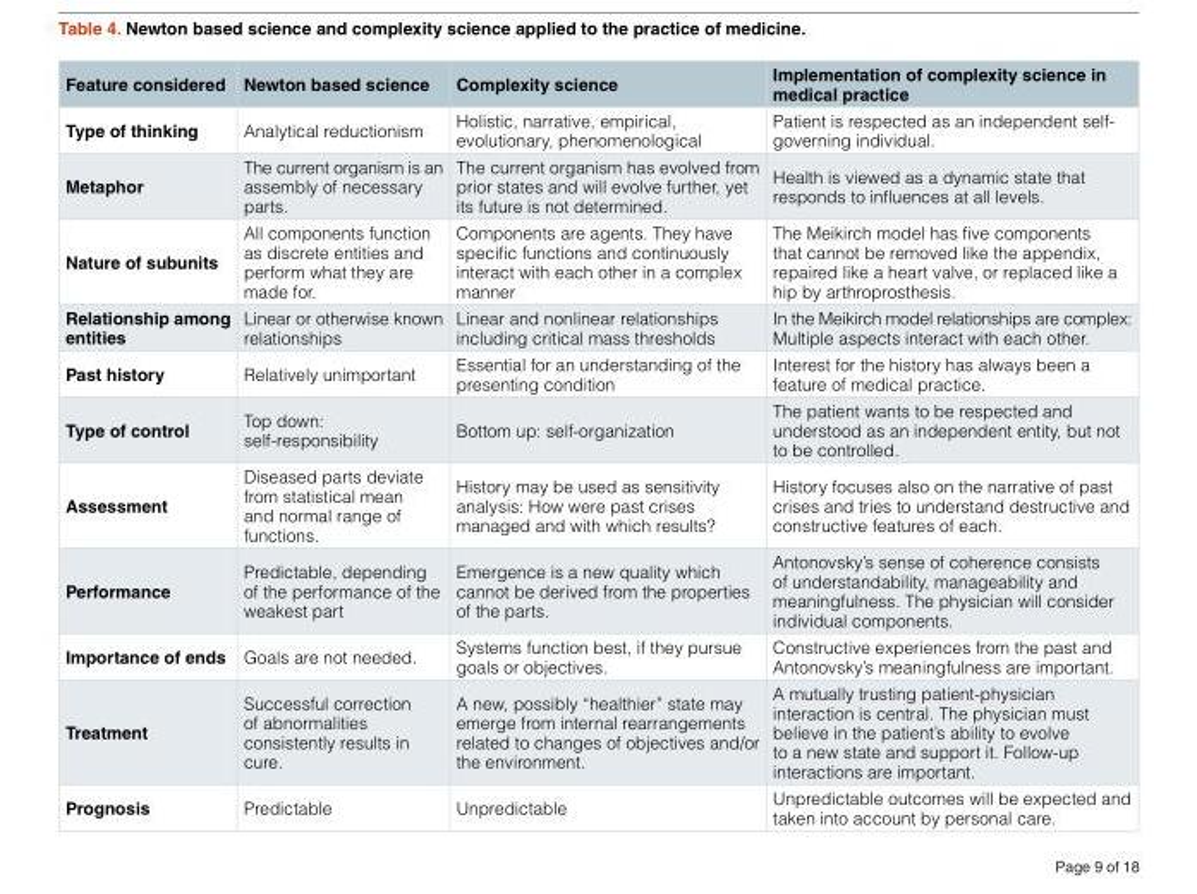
<table><thead><tr><td>Feature considered</td><td>Newton based science</td><td>Complexity science</td><td>Implementation of complexity science in medical practice</td></tr></thead><tbody><tr><td>Type of thinking</td><td>Analytical reductionism</td><td>Holistic, narrative, empirical, evolutionary, phenomenological</td><td>Patient is respected as an independent self- governing individual.</td></tr><tr><td>Metaphor</td><td>The current organism is an assembly of necessary parts.</td><td>The current organism has evolved from prior states and will evolve further, yet its future is not determined.</td><td>Health is viewed as a dynamic state that responds to influences at all levels.</td></tr><tr><td>Nature of subunits</td><td>All components function as discrete entities and perform what they are made for.</td><td>Components are agents. They have specific functions and continuously interact with each other in a complex manner</td><td>The Meikirch model has five components that cannot be removed like the appendix, repaired like a heart valve, or replaced like a hip by arthroprosthesis.</td></tr><tr><td>Relationship among entities</td><td>Linear or otherwise known relationships</td><td>Linear and nonlinear relationships including critical mass thresholds</td><td>In the Meikirch model relationships are complex: Multiple aspects interact with each other.</td></tr><tr><td>Past history</td><td>Relatively unimportant</td><td>Essential for an understanding of the presenting condition</td><td>Interest for the history has always been a feature of medical practice.</td></tr><tr><td>Type of control</td><td>Top down: self-responsibility</td><td>Bottom up: self-organization</td><td>The patient wants to be respected and understood as an independent entity, but not to be controlled.</td></tr><tr><td>Assessment</td><td>Diseased parts deviate from statistical mean and normal range of functions.</td><td>History may be used as sensitivity analysis: How were past crises managed and with which results?</td><td>History focuses also on the narrative of past crises and tries to understand destructive and constructive features of each.</td></tr><tr><td>Performance</td><td>Predictable, depending of the performance of the weakest part</td><td>Emergence is a new quality which cannot be derived from the properties of the parts.</td><td>Antonovsky’s sense of coherence consists of understandability, manageability and meaningfulness. The physician will consider individual components.</td></tr><tr><td>Importance of ends</td><td>Goals are not needed.</td><td>Systems function best, if they pursue goals or objectives.</td><td>Constructive experiences from the past and Antonovsky’s meaningfulness are important.</td></tr><tr><td>Treatment</td><td>Successful correction of abnormalities consistently results in cure.</td><td>A new, possibly “healthier” state may emerge from internal rearrangements related to changes of objectives and/or the environment.</td><td>A mutually trusting patient-physician interaction is central. The physician must believe in the patient’s ability to evolve to a new state and support it. Follow-up interactions are important.</td></tr><tr><td>Prognosis</td><td>Predictable</td><td>Unpredictable</td><td>Unpredictable outcomes will be expected and taken into account by personal care.</td></tr></tbody></table>